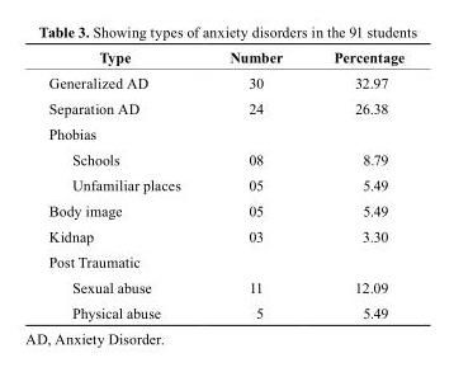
<table><thead><tr><td>type</td><td>Number</td><td>Percentage</td></tr></thead><tbody><tr><td>Generalized AD</td><td>30</td><td>32.97</td></tr><tr><td>Separation AD</td><td>24</td><td>26.38</td></tr><tr><td colspan="3">Phobias</td></tr><tr><td>Schools</td><td>08</td><td>8.79</td></tr><tr><td>Unfamiliar places</td><td>05</td><td>5.49</td></tr><tr><td>Body image</td><td>05</td><td>5.49</td></tr><tr><td>Kidnap</td><td>03</td><td>3.30</td></tr><tr><td colspan="3">Post Traumatic</td></tr><tr><td>Sexual abuse</td><td>11</td><td>12.09</td></tr><tr><td>Physical abuse</td><td>5</td><td>5.49</td></tr></tbody></table>